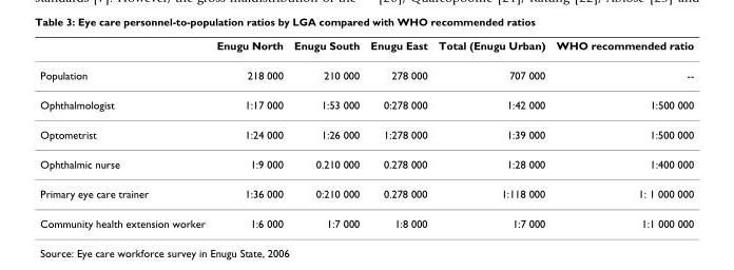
<table><thead><tr><td></td><td>Enugu North</td><td>Enugu South</td><td>Enugu East</td><td>Total (Enugu Urban)</td><td>WHO recommended ratio</td></tr></thead><tbody><tr><td>Population</td><td>218 000</td><td>210 000</td><td>278 000</td><td>707 000</td><td>--</td></tr><tr><td>Ophthalmologist</td><td>1:17 000</td><td>1:53 000</td><td>0:278 000</td><td>1:42 000</td><td>1:500 000</td></tr><tr><td>Optometrist</td><td>1:24 000</td><td>1:26 000</td><td>1:278 000</td><td>1:39 000</td><td>1:500 000</td></tr><tr><td>Ophthalmic nurse</td><td>1:9 000</td><td>0.210 000</td><td>0.278 000</td><td>1:28 000</td><td>1:400 000</td></tr><tr><td>Primary eye care trainer</td><td>1:36 000</td><td>0:210 000</td><td>0.278 000</td><td>1:118 000</td><td>1: 1 000 000</td></tr><tr><td>Community health extension worker</td><td>1:6 000</td><td>1:7 000</td><td>1:8 000</td><td>1:7 000</td><td>1:1 000 000</td></tr></tbody></table>